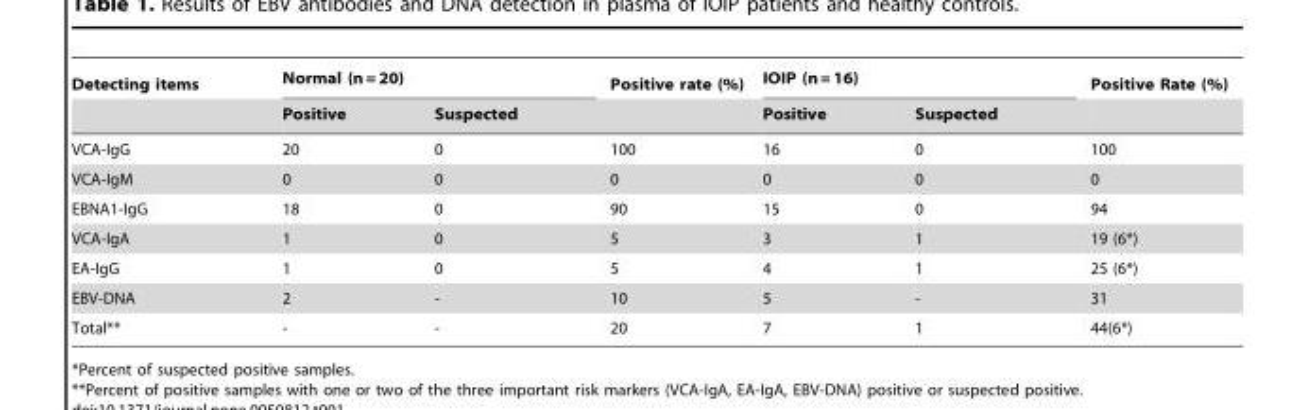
<table><thead><tr><td rowspan="2">Detecting items</td><td colspan="2">Normal (n = 20)</td><td rowspan="2">Positive rate (%)</td><td colspan="2">IOIP (n = 16)</td><td rowspan="2">Positive Rate (%)</td></tr><tr><td>Positive</td><td>Suspected</td><td>Positive</td><td>Suspected</td></tr></thead><tbody><tr><td>VCA-IgG</td><td>20</td><td>0</td><td>100</td><td>16</td><td>0</td><td>100</td></tr><tr><td>VCA-IgM</td><td>0</td><td>0</td><td>0</td><td>0</td><td>0</td><td>0</td></tr><tr><td>EBNA1-IgG</td><td>18</td><td>0</td><td>90</td><td>15</td><td>0</td><td>94</td></tr><tr><td>VCA-IgA</td><td>1</td><td>0</td><td>5</td><td>3</td><td>1</td><td>19 (6*)</td></tr><tr><td>EA-IgG</td><td>1</td><td>0</td><td>5</td><td>4</td><td>1</td><td>25 (6*)</td></tr><tr><td>EBV-DNA</td><td>2</td><td>-</td><td>10</td><td>5</td><td>-</td><td>31</td></tr><tr><td>Total**</td><td>-</td><td>-</td><td>20</td><td>7</td><td>1</td><td>44(6*)</td></tr></tbody></table>